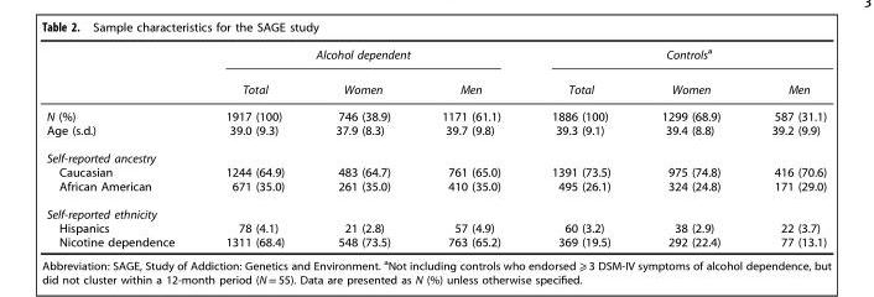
<table><thead><tr><td rowspan="2"></td><td colspan="3">Alcohol dependent</td><td colspan="3">Controls<sup>a</sup></td></tr><tr><td>Total</td><td>Women</td><td>Men</td><td>Total</td><td>Women</td><td>Men</td></tr></thead><tbody><tr><td>N (%)</td><td>1917 (100)</td><td>746 (38.9)</td><td>1171 (61.1)</td><td>1886 (100)</td><td>1299 (68.9)</td><td>587 (31.1)</td></tr><tr><td>Age (s.d.)</td><td>39.0 (9.3)</td><td>37.9 (8.3)</td><td>39.7 (9.8)</td><td>39.3 (9.1)</td><td>39.4 (8.8)</td><td>39.2 (9.9)</td></tr><tr><td colspan="7">Self-reported ancestry</td></tr><tr><td>Caucasian</td><td>1244 (64.9)</td><td>483 (64.7)</td><td>761 (65.0)</td><td>1391 (73.5)</td><td>975 (74.8)</td><td>416 (70.6)</td></tr><tr><td>African American</td><td>671 (35.0)</td><td>261 (35.0)</td><td>410 (35.0)</td><td>495 (26.1)</td><td>324 (24.8)</td><td>171 (29.0)</td></tr><tr><td colspan="7">Self-reported ethnicity</td></tr><tr><td>Hispanics</td><td>78 (4.1)</td><td>21 (2.8)</td><td>57 (4.9)</td><td>60 (3.2)</td><td>38 (2.9)</td><td>22 (3.7)</td></tr><tr><td>Nicotine dependence</td><td>1311 (68.4)</td><td>548 (73.5)</td><td>763 (65.2)</td><td>369 (19.5)</td><td>292 (22.4)</td><td>77 (13.1)</td></tr></tbody></table>